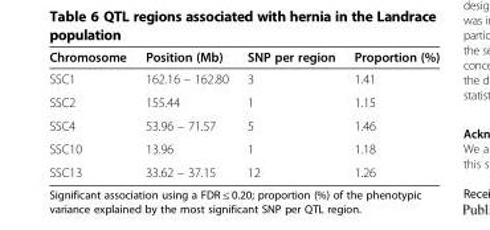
<table><thead><tr><td>Chromosome</td><td>Position (Mb)</td><td>SNP per region</td><td>Proportion (%)</td></tr></thead><tbody><tr><td>SSC1</td><td>162.16 – 162.80</td><td>3</td><td>1.41</td></tr><tr><td>SSC2</td><td>155.44</td><td>1</td><td>1.15</td></tr><tr><td>SSC4</td><td>53.96 – 71.57</td><td>5</td><td>1.46</td></tr><tr><td>SSC10</td><td>13.96</td><td>1</td><td>1.18</td></tr><tr><td>SSC13</td><td>33.62 – 37.15</td><td>12</td><td>1.26</td></tr></tbody></table>